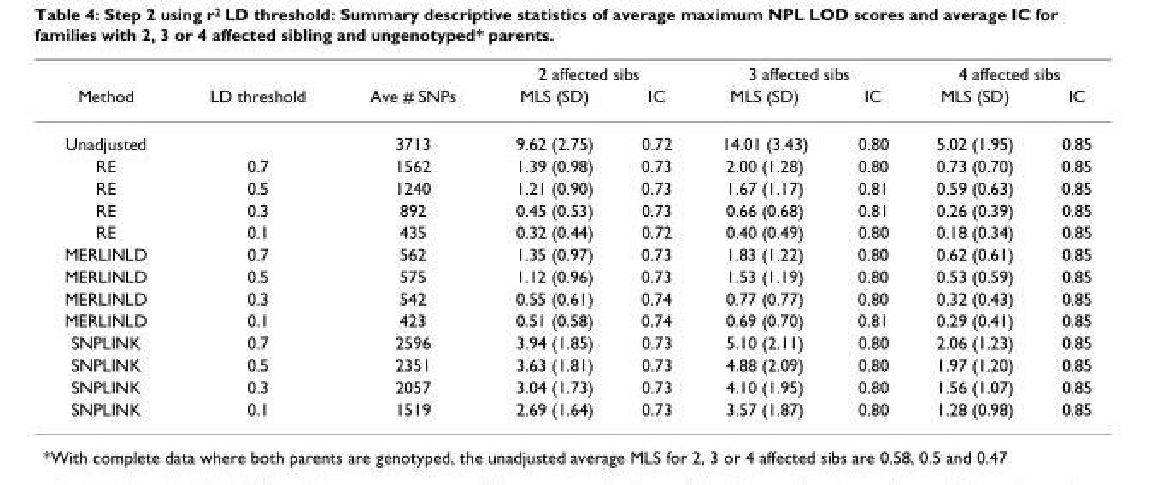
<table><thead><tr><td rowspan="2">Method</td><td rowspan="2">LD threshold</td><td rowspan="2">Ave # SNPs</td><td colspan="2">2 affected sibs</td><td colspan="2">3 affected sibs</td><td colspan="2">4 affected sibs</td></tr><tr><td>MLS (SD)</td><td>IC</td><td>MLS (SD)</td><td>IC</td><td>MLS (SD)</td><td>IC</td></tr></thead><tbody><tr><td>Unadjusted</td><td></td><td>3713</td><td>9.62 (2.75)</td><td>0.72</td><td>14.01 (3.43)</td><td>0.80</td><td>5.02 (1.95)</td><td>0.85</td></tr><tr><td>RE</td><td>0.7</td><td>1562</td><td>1.39 (0.98)</td><td>0.73</td><td>2.00 (1.28)</td><td>0.80</td><td>0.73 (0.70)</td><td>0.85</td></tr><tr><td>RE</td><td>0.5</td><td>1240</td><td>1.21 (0.90)</td><td>0.73</td><td>1.67 (1.17)</td><td>0.81</td><td>0.59 (0.63)</td><td>0.85</td></tr><tr><td>RE</td><td>0.3</td><td>892</td><td>0.45 (0.53)</td><td>0.73</td><td>0.66 (0.68)</td><td>0.81</td><td>0.26 (0.39)</td><td>0.85</td></tr><tr><td>RE</td><td>0.1</td><td>435</td><td>0.32 (0.44)</td><td>0.72</td><td>0.40 (0.49)</td><td>0.80</td><td>0.18 (0.34)</td><td>0.85</td></tr><tr><td>MERLINLD</td><td>0.7</td><td>562</td><td>1.35 (0.97)</td><td>0.73</td><td>1.83 (1.22)</td><td>0.80</td><td>0.62 (0.61)</td><td>0.85</td></tr><tr><td>MERLINLD</td><td>0.5</td><td>575</td><td>1.12 (0.96)</td><td>0.73</td><td>1.53 (1.19)</td><td>0.80</td><td>0.53 (0.59)</td><td>0.85</td></tr><tr><td>MERLINLD</td><td>0.3</td><td>542</td><td>0.55 (0.61)</td><td>0.74</td><td>0.77 (0.77)</td><td>0.80</td><td>0.32 (0.43)</td><td>0.85</td></tr><tr><td>MERLINLD</td><td>0.1</td><td>423</td><td>0.51 (0.58)</td><td>0.74</td><td>0.69 (0.70)</td><td>0.81</td><td>0.29 (0.41)</td><td>0.85</td></tr><tr><td>SNPLINK</td><td>0.7</td><td>2596</td><td>3.94 (1.85)</td><td>0.73</td><td>5.10 (2.11)</td><td>0.80</td><td>2.06 (1.23)</td><td>0.85</td></tr><tr><td>SNPLINK</td><td>0.5</td><td>2351</td><td>3.63 (1.81)</td><td>0.73</td><td>4.88 (2.09)</td><td>0.80</td><td>1.97 (1.20)</td><td>0.85</td></tr><tr><td>SNPLINK</td><td>0.3</td><td>2057</td><td>3.04 (1.73)</td><td>0.73</td><td>4.10 (1.95)</td><td>0.80</td><td>1.56 (1.07)</td><td>0.85</td></tr><tr><td>SNPLINK</td><td>0.1</td><td>1519</td><td>2.69 (1.64)</td><td>0.73</td><td>3.57 (1.87)</td><td>0.80</td><td>1.28 (0.98)</td><td>0.85</td></tr></tbody></table>